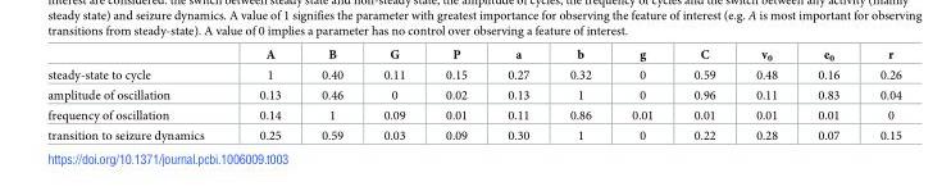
<table><thead><tr><td></td><td>A</td><td>B</td><td>G</td><td>P</td><td>a</td><td>b</td><td>g</td><td>C</td><td>v<sub>0</sub></td><td>e<sub>0</sub></td><td>r</td></tr></thead><tbody><tr><td>steady-state to cycle</td><td>1</td><td>0.40</td><td>0.11</td><td>0.15</td><td>0.27</td><td>0.32</td><td>0</td><td>0.59</td><td>0.48</td><td>0.16</td><td>0.26</td></tr><tr><td>amplitude of oscillation</td><td>0.13</td><td>0.46</td><td>0</td><td>0.02</td><td>0.13</td><td>1</td><td>0</td><td>0.96</td><td>0.11</td><td>0.83</td><td>0.04</td></tr><tr><td>frequency of oscillation</td><td>0.14</td><td>1</td><td>0.09</td><td>0.01</td><td>0.11</td><td>0.86</td><td>0.01</td><td>0.01</td><td>0.01</td><td>0.01</td><td>0</td></tr><tr><td>transition to seizure dynamics</td><td>0.25</td><td>0.59</td><td>0.03</td><td>0.09</td><td>0.30</td><td>1</td><td>0</td><td>0.22</td><td>0.28</td><td>0.07</td><td>0.15</td></tr></tbody></table>